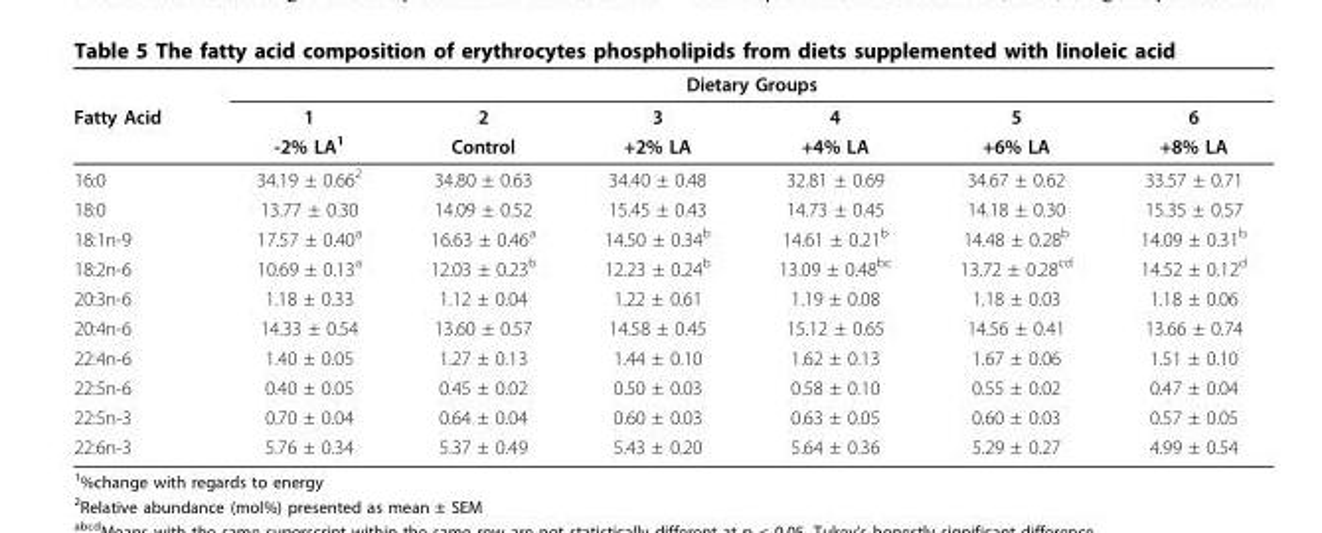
<table><thead><tr><td rowspan="3">Fatty Acid</td><td colspan="6">Dietary Groups</td></tr><tr><td rowspan="2">1 -2% LA<sup>1</sup></td><td rowspan="2">2 Control</td><td rowspan="2">3 +2% LA</td><td rowspan="2">4 +4% LA</td><td rowspan="2">5 +6% LA</td><td rowspan="2">6 +8% LA</td></tr><tr></tr></thead><tbody><tr><td>16:0</td><td>34.19 ± 0.66<sup>2</sup></td><td>34.80 ± 0.63</td><td>34.40 ± 0.48</td><td>32.81 ± 0.69</td><td>34.67 ± 0.62</td><td>33.57 ± 0.71</td></tr><tr><td>18:0</td><td>13.77 ± 0.30</td><td>14.09 ± 0.52</td><td>15.45 ± 0.43</td><td>14.73 ± 0.45</td><td>14.18 ± 0.30</td><td>15.35 ± 0.57</td></tr><tr><td>18:1n-9</td><td>17.57 ± 0.40<sup>a</sup></td><td>16.63 ± 0.46<sup>a</sup></td><td>14.50 ± 0.34<sup>b</sup></td><td>14.61 ± 0.21<sup>b</sup></td><td>14.48 ± 0.28<sup>b</sup></td><td>14.09 ± 0.31<sup>b</sup></td></tr><tr><td>18:2n-6</td><td>10.69 ± 0.13<sup>a</sup></td><td>12.03 ± 0.23<sup>b</sup></td><td>12.23 ± 0.24<sup>b</sup></td><td>13.09 ± 0.48<sup>bc</sup></td><td>13.72 ± 0.28<sup>cd</sup></td><td>14.52 ± 0.12<sup>d</sup></td></tr><tr><td>20:3n-6</td><td>1.18 ± 0.33</td><td>1.12 ± 0.04</td><td>1.22 ± 0.61</td><td>1.19 ± 0.08</td><td>1.18 ± 0.03</td><td>1.18 ± 0.06</td></tr><tr><td>20:4n-6</td><td>14.33 ± 0.54</td><td>13.60 ± 0.57</td><td>14.58 ± 0.45</td><td>15.12 ± 0.65</td><td>14.56 ± 0.41</td><td>13.66 ± 0.74</td></tr><tr><td>22:4n-6</td><td>1.40 ± 0.05</td><td>1.27 ± 0.13</td><td>1.44 ± 0.10</td><td>1.62 ± 0.13</td><td>1.67 ± 0.06</td><td>1.51 ± 0.10</td></tr><tr><td>22:5n-6</td><td>0.40 ± 0.05</td><td>0.45 ± 0.02</td><td>0.50 ± 0.03</td><td>0.58 ± 0.10</td><td>0.55 ± 0.02</td><td>0.47 ± 0.04</td></tr><tr><td>22:5n-3</td><td>0.70 ± 0.04</td><td>0.64 ± 0.04</td><td>0.60 ± 0.03</td><td>0.63 ± 0.05</td><td>0.60 ± 0.03</td><td>0.57 ± 0.05</td></tr><tr><td>22:6n-3</td><td>5.76 ± 0.34</td><td>5.37 ± 0.49</td><td>5.43 ± 0.20</td><td>5.64 ± 0.36</td><td>5.29 ± 0.27</td><td>4.99 ± 0.54</td></tr></tbody></table>